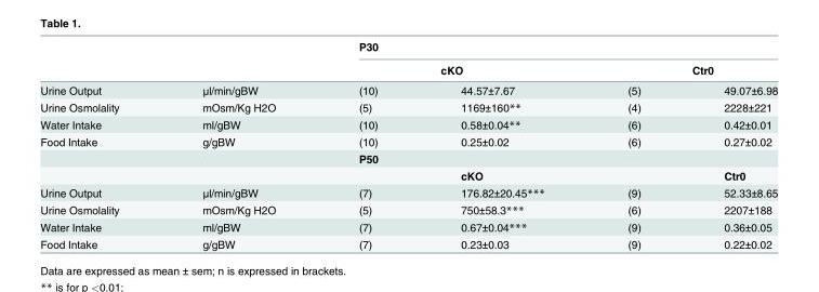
<table><thead><tr><td rowspan="3">Urine Output</td><td rowspan="3">μl/min/gBW</td><td colspan="4">P30</td></tr><tr><td colspan="2">cKO</td><td colspan="2">Ctr0</td></tr><tr><td>(10)</td><td>44.57±7.67</td><td>(5)</td><td>49.07±6.98</td></tr></thead><tbody><tr><td>Urine Osmolality</td><td>mOsm/Kg H2O</td><td>(5)</td><td>1169±160**</td><td>(4)</td><td>2228±221</td></tr><tr><td>Water Intake</td><td>ml/gBW</td><td>(10)</td><td>0.58±0.04**</td><td>(6)</td><td>0.42±0.01</td></tr><tr><td rowspan="3">Food Intake</td><td>g/gBW</td><td>(10)</td><td>0.25±0.02</td><td>(6)</td><td>0.27±0.02</td></tr><tr><td></td><td colspan="4">P50</td></tr><tr><td></td><td></td><td>cKO</td><td></td><td>Ctr0</td></tr><tr><td>Urine Output</td><td>μl/min/gBW</td><td>(7)</td><td>176.82±20.45***</td><td>(9)</td><td>52.33±8.65</td></tr><tr><td>Urine Osmolality</td><td>mOsm/Kg H2O</td><td>(5)</td><td>750±58.3***</td><td>(6)</td><td>2207±188</td></tr><tr><td>Water Intake</td><td>ml/gBW</td><td>(7)</td><td>0.67±0.04***</td><td>(9)</td><td>0.36±0.05</td></tr><tr><td>Food Intake</td><td>g/gBW</td><td>(7)</td><td>0.23±0.03</td><td>(9)</td><td>0.22±0.02</td></tr></tbody></table>